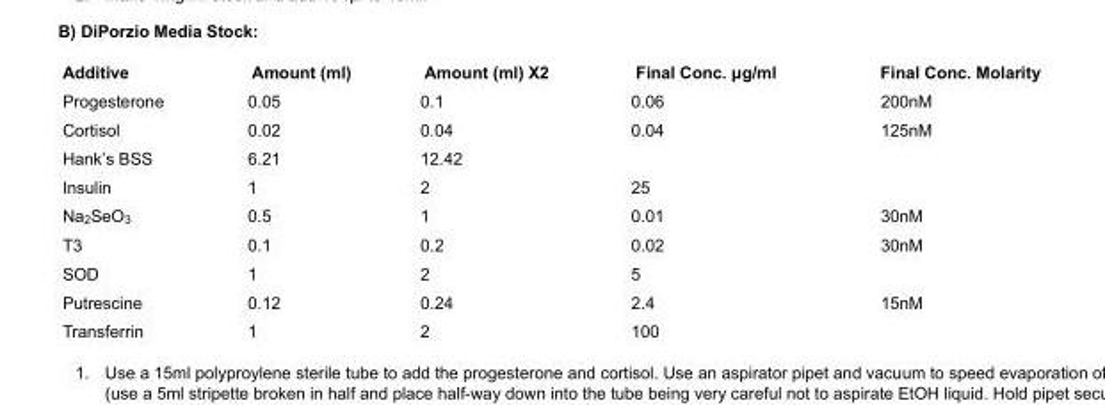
<table><tbody><tr><td>Additive</td><td>Amount (ml)</td><td>Amount (ml) X2</td><td>Final Conc. μg/ml</td><td>Final Conc. Molarity</td></tr><tr><td>Progesterone</td><td>0.05</td><td>0.1</td><td>0.06</td><td>200nM</td></tr><tr><td>Cortisol</td><td>0.02</td><td>0.04</td><td>0.04</td><td>125nM</td></tr><tr><td>Hank’s BSS</td><td>6.21</td><td>12.42</td><td></td><td></td></tr><tr><td>Insulin</td><td>1</td><td>2</td><td>25</td><td></td></tr><tr><td>Na<sub>2</sub>SeO<sub>3</sub></td><td>0.5</td><td>1</td><td>0.01</td><td>30nM</td></tr><tr><td>T3</td><td>0.1</td><td>0.2</td><td>0.02</td><td>30nM</td></tr><tr><td>SOD</td><td>1</td><td>2</td><td>5</td><td></td></tr><tr><td>Putrescine</td><td>0.12</td><td>0.24</td><td>2.4</td><td>15nM</td></tr><tr><td>Transferrin</td><td>1</td><td>2</td><td>100</td><td></td></tr></tbody></table>